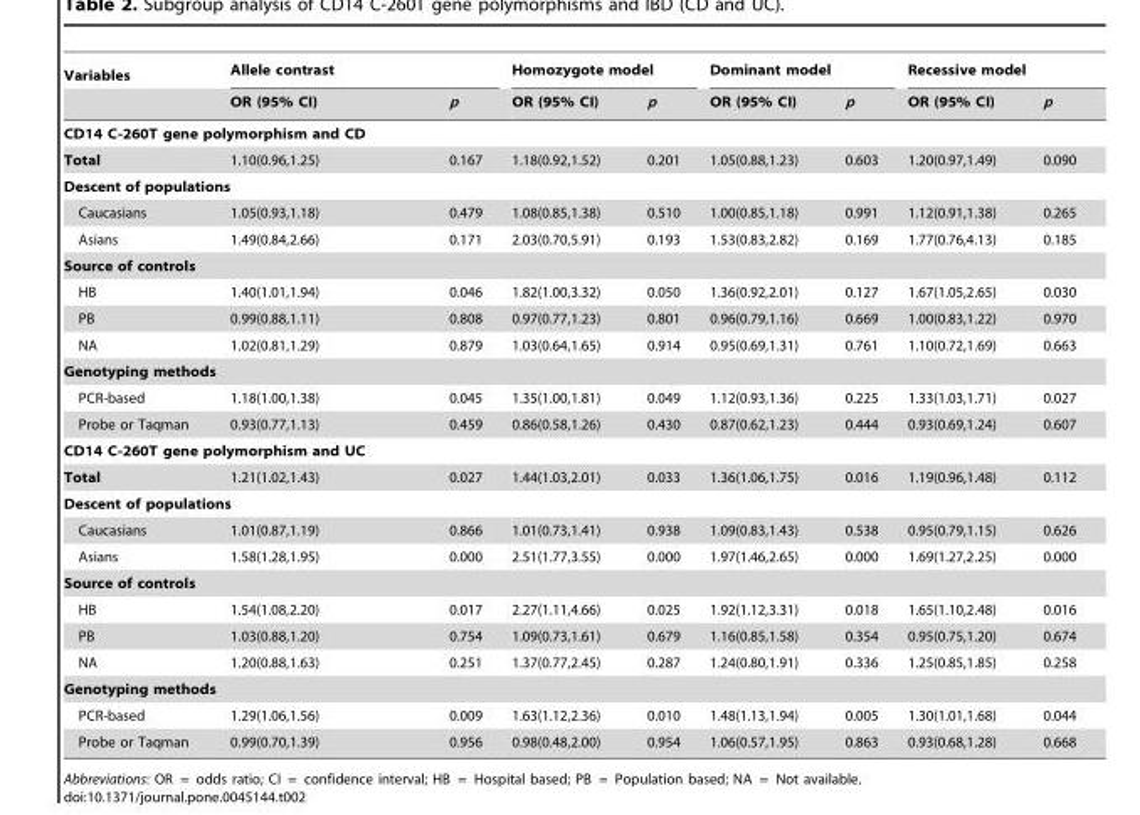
<table><thead><tr><td rowspan="2">Variables</td><td colspan="2">Allele contrast</td><td colspan="2">Homozygote model</td><td colspan="2">Dominant model</td><td colspan="2">Recessive model</td></tr><tr><td>OR (95% CI)</td><td>p</td><td>OR (95% CI)</td><td>p</td><td>OR (95% CI)</td><td>p</td><td>OR (95% CI)</td><td>p</td></tr></thead><tbody><tr><td colspan="9">CD14 C-260T gene polymorphism and CD</td></tr><tr><td>Total</td><td>1.10(0.96,1.25)</td><td>0.167</td><td>1.18(0.92,1.52)</td><td>0.201</td><td>1.05(0.88,1.23)</td><td>0.603</td><td>1.20(0.97,1.49)</td><td>0.090</td></tr><tr><td colspan="9">Descent of populations</td></tr><tr><td>Caucasians</td><td>1.05(0.93,1.18)</td><td>0.479</td><td>1.08(0.85,1.38)</td><td>0.510</td><td>1.00(0.85,1.18)</td><td>0.991</td><td>1.12(0.91,1.38)</td><td>0.265</td></tr><tr><td>Asians</td><td>1.49(0.84,2.66)</td><td>0.171</td><td>2.03(0.70,5.91)</td><td>0.193</td><td>1.53(0.83,2.82)</td><td>0.169</td><td>1.77(0.76,4.13)</td><td>0.185</td></tr><tr><td colspan="9">Source of controls</td></tr><tr><td>HB</td><td>1.40(1.01,1.94)</td><td>0.046</td><td>1.82(1.00,3.32)</td><td>0.050</td><td>1.36(0.92,2.01)</td><td>0.127</td><td>1.67(1.05,2.65)</td><td>0.030</td></tr><tr><td>PB</td><td>0.99(0.88,1.11)</td><td>0.808</td><td>0.97(0.77,1.23)</td><td>0.801</td><td>0.96(0.79,1.16)</td><td>0.669</td><td>1.00(0.83,1.22)</td><td>0.970</td></tr><tr><td>NA</td><td>1.02(0.81,1.29)</td><td>0.879</td><td>1.03(0.64,1.65)</td><td>0.914</td><td>0.95(0.69,1.31)</td><td>0.761</td><td>1.10(0.72,1.69)</td><td>0.663</td></tr><tr><td colspan="9">Genotyping methods</td></tr><tr><td>PCR-based</td><td>1.18(1.00,1.38)</td><td>0.045</td><td>1.35(1.00,1.81)</td><td>0.049</td><td>1.12(0.93,1.36)</td><td>0.225</td><td>1.33(1.03,1.71)</td><td>0.027</td></tr><tr><td>Probe or Taqman</td><td>0.93(0.77,1.13)</td><td>0.459</td><td>0.86(0.58,1.26)</td><td>0.430</td><td>0.87(0.62,1.23)</td><td>0.444</td><td>0.93(0.69,1.24)</td><td>0.607</td></tr><tr><td colspan="9">CD14 C-260T gene polymorphism and UC</td></tr><tr><td>Total</td><td>1.21(1.02,1.43)</td><td>0.027</td><td>1.44(1.03,2.01)</td><td>0.033</td><td>1.36(1.06,1.75)</td><td>0.016</td><td>1.19(0.96,1.48)</td><td>0.112</td></tr><tr><td colspan="9">Descent of populations</td></tr><tr><td>Caucasians</td><td>1.01(0.87,1.19)</td><td>0.866</td><td>1.01(0.73,1.41)</td><td>0.938</td><td>1.09(0.83,1.43)</td><td>0.538</td><td>0.95(0.79,1.15)</td><td>0.626</td></tr><tr><td>Asians</td><td>1.58(1.28,1.95)</td><td>0.000</td><td>2.51(1.77,3.55)</td><td>0.000</td><td>1.97(1.46,2.65)</td><td>0.000</td><td>1.69(1.27,2.25)</td><td>0.000</td></tr><tr><td colspan="9">Source of controls</td></tr><tr><td>HB</td><td>1.54(1.08,2.20)</td><td>0.017</td><td>2.27(1.11,4.66)</td><td>0.025</td><td>1.92(1.12,3.31)</td><td>0.018</td><td>1.65(1.10,2.48)</td><td>0.016</td></tr><tr><td>PB</td><td>1.03(0.88,1.20)</td><td>0.754</td><td>1.09(0.73,1.61)</td><td>0.679</td><td>1.16(0.85,1.58)</td><td>0.354</td><td>0.95(0.75,1.20)</td><td>0.674</td></tr><tr><td>NA</td><td>1.20(0.88,1.63)</td><td>0.251</td><td>1.37(0.77,2.45)</td><td>0.287</td><td>1.24(0.80,1.91)</td><td>0.336</td><td>1.25(0.85,1.85)</td><td>0.258</td></tr><tr><td colspan="9">Genotyping methods</td></tr><tr><td>PCR-based</td><td>1.29(1.06,1.56)</td><td>0.009</td><td>1.63(1.12,2.36)</td><td>0.010</td><td>1.48(1.13,1.94)</td><td>0.005</td><td>1.30(1.01,1.68)</td><td>0.044</td></tr><tr><td>Probe or Taqman</td><td>0.99(0.70,1.39)</td><td>0.956</td><td>0.98(0.48,2.00)</td><td>0.954</td><td>1.06(0.57,1.95)</td><td>0.863</td><td>0.93(0.68,1.28)</td><td>0.668</td></tr></tbody></table>